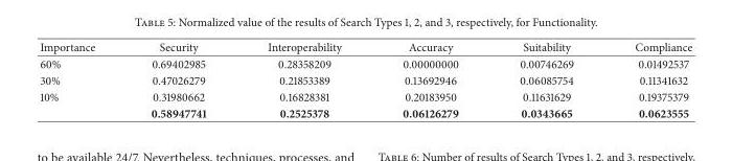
<table><thead><tr><td>Importance</td><td>Security</td><td>Interoperability</td><td>Accuracy</td><td>Suitability</td><td>Compliance</td></tr></thead><tbody><tr><td>60%</td><td>0.69402985</td><td>0.28358209</td><td>0.00000000</td><td>0.00746269</td><td>0.01492537</td></tr><tr><td>30%</td><td>0.47026279</td><td>0.21853389</td><td>0.13692946</td><td>0.06085754</td><td>0.11341632</td></tr><tr><td rowspan="2">10%</td><td>0.31980662</td><td>0.16828381</td><td>0.20183950</td><td>0.11631629</td><td>0.19375379</td></tr><tr><td>0.58947741</td><td>0.2525378</td><td>0.06126279</td><td>0.0343665</td><td>0.0623555</td></tr></tbody></table>